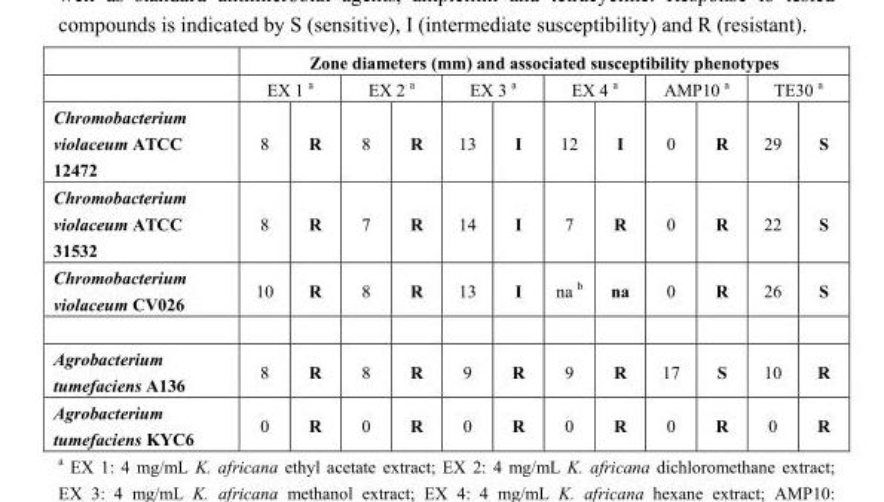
<table><thead><tr><td rowspan="3">Chromobacterium violaceum ATCC 12472</td><td colspan="12">Zone diameters (mm) and associated susceptibility phenotypes</td></tr><tr><td colspan="2">EX 1 a</td><td colspan="2">EX 2 a</td><td colspan="2">EX 3 a</td><td colspan="2">EX 4 a</td><td colspan="2">AMP10 a</td><td colspan="2">TE30 a</td></tr><tr><td>8</td><td>R</td><td>8</td><td>R</td><td>13</td><td>I</td><td>12</td><td>I</td><td>0</td><td>R</td><td>29</td><td>S</td></tr></thead><tbody><tr><td>Chromobacterium violaceum ATCC 31532</td><td>8</td><td>R</td><td>7</td><td>R</td><td>14</td><td>I</td><td>7</td><td>R</td><td>0</td><td>R</td><td>22</td><td>S</td></tr><tr><td>Chromobacterium violaceum CV026</td><td>10</td><td>R</td><td>8</td><td>R</td><td>13</td><td>I</td><td>na b</td><td>na</td><td>0</td><td>R</td><td>26</td><td>S</td></tr><tr><td>Agrobacterium tumefaciens A136</td><td>8</td><td>R</td><td>8</td><td>R</td><td>9</td><td>R</td><td>9</td><td>R</td><td>17</td><td>S</td><td>10</td><td>R</td></tr><tr><td>Agrobacterium tumefaciens KYC6</td><td>0</td><td>R</td><td>0</td><td>R</td><td>0</td><td>R</td><td>0</td><td>R</td><td>0</td><td>R</td><td>0</td><td>R</td></tr></tbody></table>